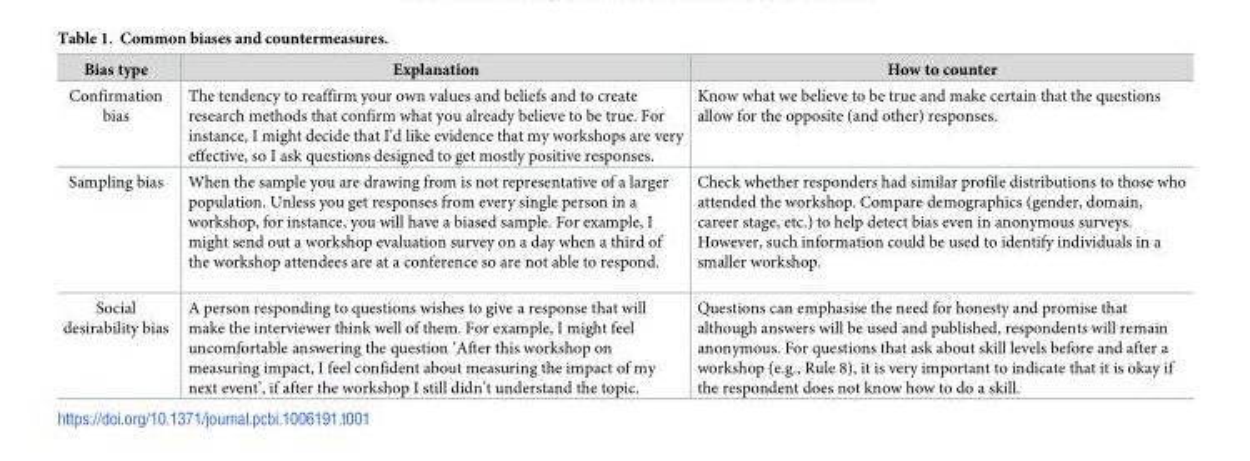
<table><thead><tr><td>Bias type</td><td>Explanation</td><td>How to counter</td></tr></thead><tbody><tr><td>Confirmation bias</td><td>The tendency to reaffirm your own values and beliefs and to create research methods that confirm what you already believe to be true. For instance, I might decide that I’d like evidence that my workshops are very effective, so I ask questions designed to get mostly positive responses.</td><td>Know what we believe to be true and make certain that the questions allow for the opposite (and other) responses.</td></tr><tr><td>Sampling bias</td><td>When the sample you are drawing from is not representative of a larger population. Unless you get responses from every single person in a workshop, for instance, you will have a biased sample. For example, I might send out a workshop evaluation survey on a day when a third of the workshop attendees are at a conference so are not able to respond.</td><td>Check whether responders had similar profile distributions to those who attended the workshop. Compare demographics (gender, domain, career stage, etc.) to help detect bias even in anonymous surveys. However, such information could be used to identify individuals in a smaller workshop.</td></tr><tr><td>Social desirability bias</td><td>A person responding to questions wishes to give a response that will make the interviewer think well of them. For example, I might feel uncomfortable answering the question ‘After this workshop on measuring impact, I feel confident about measuring the impact of my next event’, if after the workshop I still didn’t understand the topic.</td><td>Questions can emphasise the need for honesty and promise that although answers will be used and published, respondents will remain anonymous. For questions that ask about skill levels before and after a workshop (e.g., Rule 8), it is very important to indicate that it is okay if the respondent does not know how to do a skill.</td></tr></tbody></table>